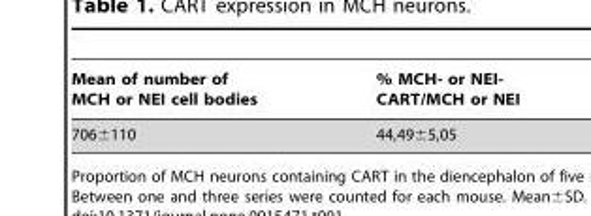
<table><thead><tr><td>Mean of number of MCH or NEI cell bodies</td><td>% MCH- or NEI- CART/MCH or NEI</td></tr></thead><tbody><tr><td>706±110</td><td>44,49±5,05</td></tr></tbody></table>